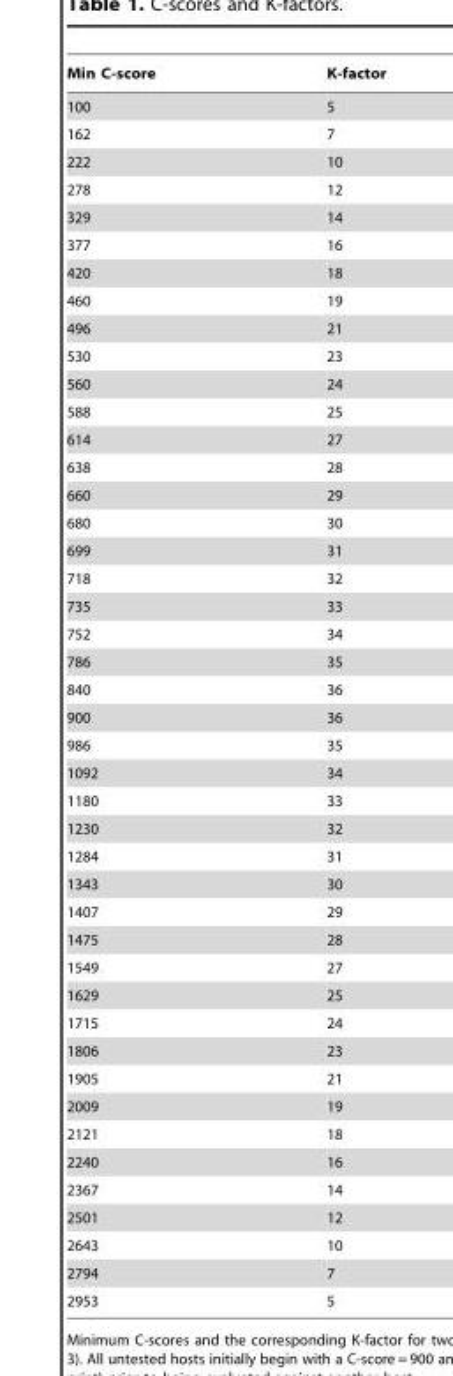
<table><thead><tr><td>Min C-score</td><td>K-factor</td></tr></thead><tbody><tr><td>100</td><td>5</td></tr><tr><td>162</td><td>7</td></tr><tr><td>222</td><td>10</td></tr><tr><td>278</td><td>12</td></tr><tr><td>329</td><td>14</td></tr><tr><td>377</td><td>16</td></tr><tr><td>420</td><td>18</td></tr><tr><td>460</td><td>19</td></tr><tr><td>496</td><td>21</td></tr><tr><td>530</td><td>23</td></tr><tr><td>560</td><td>24</td></tr><tr><td>588</td><td>25</td></tr><tr><td>614</td><td>27</td></tr><tr><td>638</td><td>28</td></tr><tr><td>660</td><td>29</td></tr><tr><td>680</td><td>30</td></tr><tr><td>699</td><td>31</td></tr><tr><td>718</td><td>32</td></tr><tr><td>735</td><td>33</td></tr><tr><td>752</td><td>34</td></tr><tr><td>786</td><td>35</td></tr><tr><td>840</td><td>36</td></tr><tr><td>900</td><td>36</td></tr><tr><td>986</td><td>35</td></tr><tr><td>1092</td><td>34</td></tr><tr><td>1180</td><td>33</td></tr><tr><td>1230</td><td>32</td></tr><tr><td>1284</td><td>31</td></tr><tr><td>1343</td><td>30</td></tr><tr><td>1407</td><td>29</td></tr><tr><td>1475</td><td>28</td></tr><tr><td>1549</td><td>27</td></tr><tr><td>1629</td><td>25</td></tr><tr><td>1715</td><td>24</td></tr><tr><td>1806</td><td>23</td></tr><tr><td>1905</td><td>21</td></tr><tr><td>2009</td><td>19</td></tr><tr><td>2121</td><td>18</td></tr><tr><td>2240</td><td>16</td></tr><tr><td>2367</td><td>14</td></tr><tr><td>2501</td><td>12</td></tr><tr><td>2643</td><td>10</td></tr><tr><td>2794</td><td>7</td></tr><tr><td>2953</td><td>5</td></tr></tbody></table>